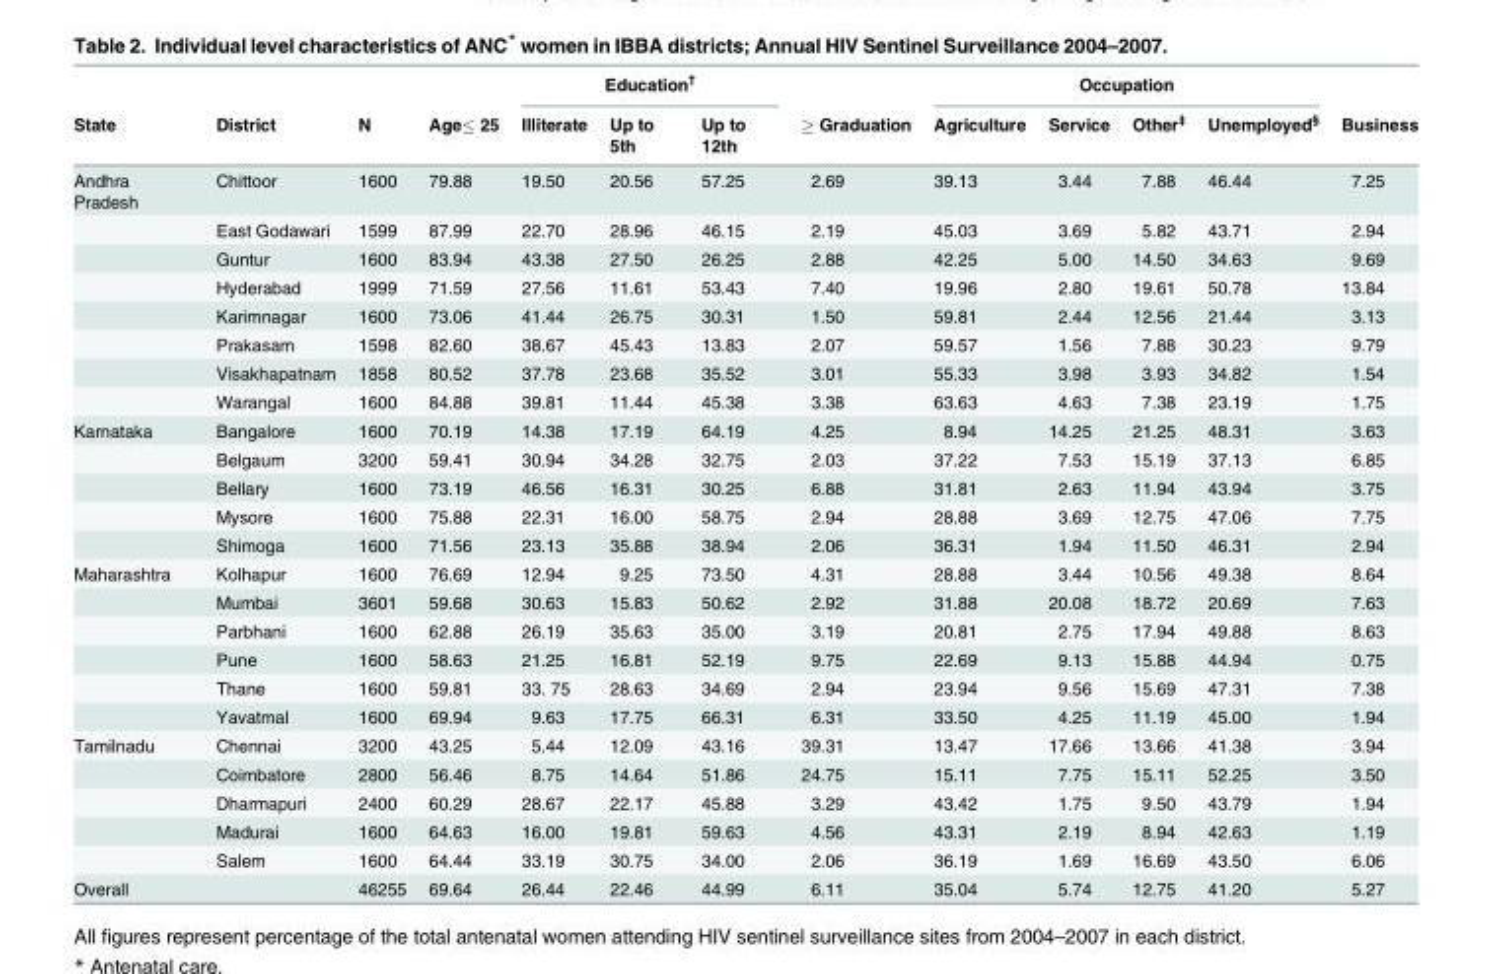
<table><thead><tr><td rowspan="2">State</td><td rowspan="2">District</td><td rowspan="2">N</td><td rowspan="2">Age≤ 25</td><td colspan="3">Education<sup>†</sup></td><td rowspan="2">≥ Graduation</td><td colspan="4">Occupation</td><td rowspan="2">Business</td></tr><tr><td>Illiterate</td><td>Up to 5th</td><td>Up to 12th</td><td>Agriculture</td><td>Service</td><td>Other<sup>‡</sup></td><td>Unemployed<sup>§</sup></td></tr></thead><tbody><tr><td rowspan="8">Andhra Pradesh</td><td>Chittoor</td><td>1600</td><td>79.88</td><td>19.50</td><td>20.56</td><td>57.25</td><td>2.69</td><td>39.13</td><td>3.44</td><td>7.88</td><td>46.44</td><td>7.25</td></tr><tr><td>East Godawari</td><td>1599</td><td>87.99</td><td>22.70</td><td>28.96</td><td>46.15</td><td>2.19</td><td>45.03</td><td>3.69</td><td>5.82</td><td>43.71</td><td>2.94</td></tr><tr><td>Guntur</td><td>1600</td><td>83.94</td><td>43.38</td><td>27.50</td><td>26.25</td><td>2.88</td><td>42.25</td><td>5.00</td><td>14.50</td><td>34.63</td><td>9.69</td></tr><tr><td>Hyderabad</td><td>1999</td><td>71.59</td><td>27.56</td><td>11.61</td><td>53.43</td><td>7.40</td><td>19.96</td><td>2.80</td><td>19.61</td><td>50.78</td><td>13.84</td></tr><tr><td>Karimnagar</td><td>1600</td><td>73.06</td><td>41.44</td><td>26.75</td><td>30.31</td><td>1.50</td><td>59.81</td><td>2.44</td><td>12.56</td><td>21.44</td><td>3.13</td></tr><tr><td>Prakasam</td><td>1598</td><td>82.60</td><td>38.67</td><td>45.43</td><td>13.83</td><td>2.07</td><td>59.57</td><td>1.56</td><td>7.88</td><td>30.23</td><td>9.79</td></tr><tr><td>Visakhapatnam</td><td>1858</td><td>80.52</td><td>37.78</td><td>23.68</td><td>35.52</td><td>3.01</td><td>55.33</td><td>3.98</td><td>3.93</td><td>34.82</td><td>1.54</td></tr><tr><td>Warangal</td><td>1600</td><td>84.88</td><td>39.81</td><td>11.44</td><td>45.38</td><td>3.38</td><td>63.63</td><td>4.63</td><td>7.38</td><td>23.19</td><td>1.75</td></tr><tr><td rowspan="5">Karnataka</td><td>Bangalore</td><td>1600</td><td>70.19</td><td>14.38</td><td>17.19</td><td>64.19</td><td>4.25</td><td>8.94</td><td>14.25</td><td>21.25</td><td>48.31</td><td>3.63</td></tr><tr><td>Belgaum</td><td>3200</td><td>59.41</td><td>30.94</td><td>34.28</td><td>32.75</td><td>2.03</td><td>37.22</td><td>7.53</td><td>15.19</td><td>37.13</td><td>6.85</td></tr><tr><td>Bellary</td><td>1600</td><td>73.19</td><td>46.56</td><td>16.31</td><td>30.25</td><td>6.88</td><td>31.81</td><td>2.63</td><td>11.94</td><td>43.94</td><td>3.75</td></tr><tr><td>Mysore</td><td>1600</td><td>75.88</td><td>22.31</td><td>16.00</td><td>58.75</td><td>2.94</td><td>28.88</td><td>3.69</td><td>12.75</td><td>47.06</td><td>7.75</td></tr><tr><td>Shimoga</td><td>1600</td><td>71.56</td><td>23.13</td><td>35.88</td><td>38.94</td><td>2.06</td><td>36.31</td><td>1.94</td><td>11.50</td><td>46.31</td><td>2.94</td></tr><tr><td rowspan="6">Maharashtra</td><td>Kolhapur</td><td>1600</td><td>76.69</td><td>12.94</td><td>9.25</td><td>73.50</td><td>4.31</td><td>28.88</td><td>3.44</td><td>10.56</td><td>49.38</td><td>8.64</td></tr><tr><td>Mumbai</td><td>3601</td><td>59.68</td><td>30.63</td><td>15.83</td><td>50.62</td><td>2.92</td><td>31.88</td><td>20.08</td><td>18.72</td><td>20.69</td><td>7.63</td></tr><tr><td>Parbhani</td><td>1600</td><td>62.88</td><td>26.19</td><td>35.63</td><td>35.00</td><td>3.19</td><td>20.81</td><td>2.75</td><td>17.94</td><td>49.88</td><td>8.63</td></tr><tr><td>Pune</td><td>1600</td><td>58.63</td><td>21.25</td><td>16.81</td><td>52.19</td><td>9.75</td><td>22.69</td><td>9.13</td><td>15.88</td><td>44.94</td><td>0.75</td></tr><tr><td>Thane</td><td>1600</td><td>59.81</td><td>33. 75</td><td>28.63</td><td>34.69</td><td>2.94</td><td>23.94</td><td>9.56</td><td>15.69</td><td>47.31</td><td>7.38</td></tr><tr><td>Yavatmal</td><td>1600</td><td>69.94</td><td>9.63</td><td>17.75</td><td>66.31</td><td>6.31</td><td>33.50</td><td>4.25</td><td>11.19</td><td>45.00</td><td>1.94</td></tr><tr><td rowspan="5">Tamilnadu</td><td>Chennai</td><td>3200</td><td>43.25</td><td>5.44</td><td>12.09</td><td>43.16</td><td>39.31</td><td>13.47</td><td>17.66</td><td>13.66</td><td>41.38</td><td>3.94</td></tr><tr><td>Coimbatore</td><td>2800</td><td>56.46</td><td>8.75</td><td>14.64</td><td>51.86</td><td>24.75</td><td>15.11</td><td>7.75</td><td>15.11</td><td>52.25</td><td>3.50</td></tr><tr><td>Dharmapuri</td><td>2400</td><td>60.29</td><td>28.67</td><td>22.17</td><td>45.88</td><td>3.29</td><td>43.42</td><td>1.75</td><td>9.50</td><td>43.79</td><td>1.94</td></tr><tr><td>Madurai</td><td>1600</td><td>64.63</td><td>16.00</td><td>19.81</td><td>59.63</td><td>4.56</td><td>43.31</td><td>2.19</td><td>8.94</td><td>42.63</td><td>1.19</td></tr><tr><td>Salem</td><td>1600</td><td>64.44</td><td>33.19</td><td>30.75</td><td>34.00</td><td>2.06</td><td>36.19</td><td>1.69</td><td>16.69</td><td>43.50</td><td>6.06</td></tr><tr><td>Overall</td><td></td><td>46255</td><td>69.64</td><td>26.44</td><td>22.46</td><td>44.99</td><td>6.11</td><td>35.04</td><td>5.74</td><td>12.75</td><td>41.20</td><td>5.27</td></tr></tbody></table>